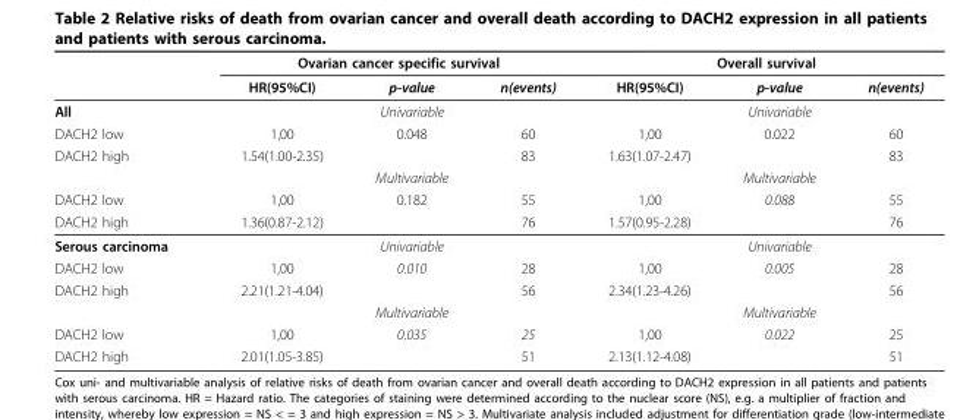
<table><thead><tr><td rowspan="2"></td><td colspan="3">Ovarian cancer specific survival</td><td colspan="3">Overall survival</td></tr><tr><td>HR(95%CI)</td><td>p-value</td><td>n(events)</td><td>HR(95%CI)</td><td>p-value</td><td>n(events)</td></tr></thead><tbody><tr><td>All</td><td></td><td>Univariable</td><td></td><td></td><td>Univariable</td><td></td></tr><tr><td>DACH2 low</td><td>1,00</td><td>0.048</td><td>60</td><td>1,00</td><td>0.022</td><td>60</td></tr><tr><td rowspan="2">DACH2 high</td><td>1.54(1.00-2.35)</td><td></td><td>83</td><td>1.63(1.07-2.47)</td><td></td><td>83</td></tr><tr><td></td><td>Multivariable</td><td></td><td></td><td>Multivariable</td><td></td></tr><tr><td>DACH2 low</td><td>1,00</td><td>0.182</td><td>55</td><td>1,00</td><td>0.088</td><td>55</td></tr><tr><td>DACH2 high</td><td>1.36(0.87-2.12)</td><td></td><td>76</td><td>1.57(0.95-2.28)</td><td></td><td>76</td></tr><tr><td>Serous carcinoma</td><td></td><td>Univariable</td><td></td><td></td><td>Univariable</td><td></td></tr><tr><td>DACH2 low</td><td>1,00</td><td>0.010</td><td>28</td><td>1,00</td><td>0.005</td><td>28</td></tr><tr><td rowspan="2">DACH2 high</td><td>2.21(1.21-4.04)</td><td></td><td>56</td><td>2.34(1.23-4.26)</td><td></td><td>56</td></tr><tr><td></td><td>Multivariable</td><td></td><td></td><td>Multivariable</td><td></td></tr><tr><td>DACH2 low</td><td>1,00</td><td>0.035</td><td>25</td><td>1,00</td><td>0.022</td><td>25</td></tr><tr><td>DACH2 high</td><td>2.01(1.05-3.85)</td><td></td><td>51</td><td>2.13(1.12-4.08)</td><td></td><td>51</td></tr></tbody></table>